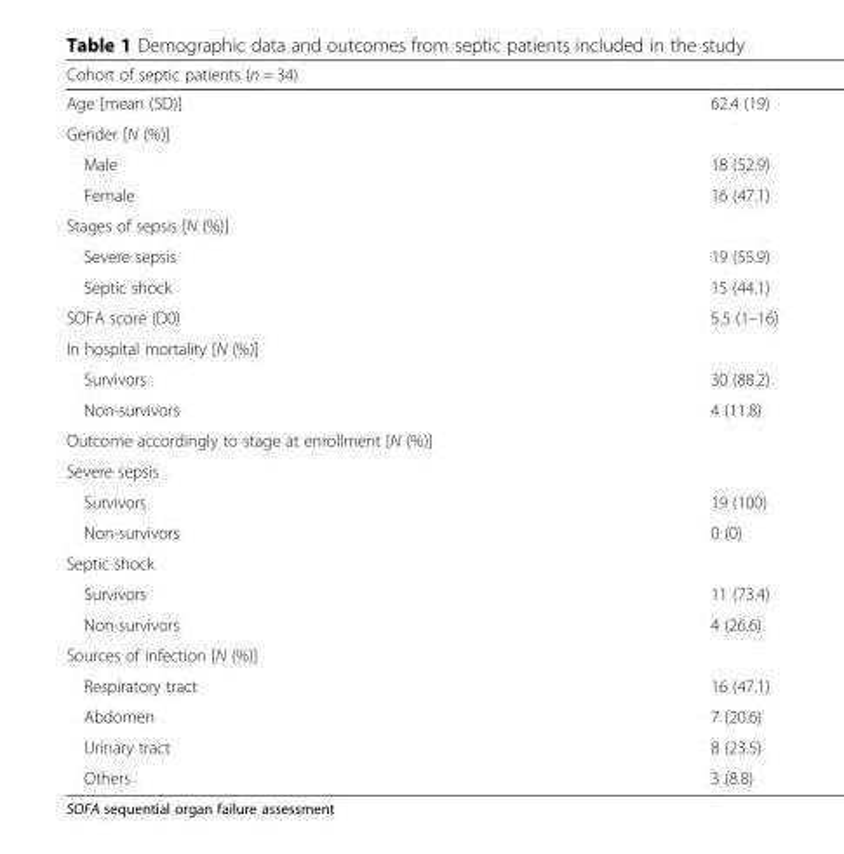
<table><thead><tr><td colspan="2">Cohort of septic patients (n = 34)</td></tr><tr><td>Age [mean (SD)]</td><td>62.4 (19)</td></tr></thead><tbody><tr><td colspan="2">Gender [N (%)]</td></tr><tr><td>Male</td><td>18 (52.9)</td></tr><tr><td>Female</td><td>16 (47.1)</td></tr><tr><td colspan="2">Stages of sepsis [N (%)]</td></tr><tr><td>Severe sepsis</td><td>19 (55.9)</td></tr><tr><td>Septic shock</td><td>15 (44.1)</td></tr><tr><td>SOFA score (D0)</td><td>5.5 (1–16)</td></tr><tr><td colspan="2">In hospital mortality [N (%)]</td></tr><tr><td>Survivors</td><td>30 (88.2)</td></tr><tr><td>Non-survivors</td><td>4 (11.8)</td></tr><tr><td colspan="2">Outcome accordingly to stage at enrollment [N (%)]</td></tr><tr><td colspan="2">Severe sepsis</td></tr><tr><td>Survivors</td><td>19 (100)</td></tr><tr><td>Non-survivors</td><td>0 (0)</td></tr><tr><td colspan="2">Septic shock</td></tr><tr><td>Survivors</td><td>11 (73.4)</td></tr><tr><td>Non-survivors</td><td>4 (26.6)</td></tr><tr><td colspan="2">Sources of infection [N (%)]</td></tr><tr><td>Respiratory tract</td><td>16 (47.1)</td></tr><tr><td>Abdomen</td><td>7 (20.6)</td></tr><tr><td>Urinary tract</td><td>8 (23.5)</td></tr><tr><td>Others</td><td>3 (8.8)</td></tr></tbody></table>